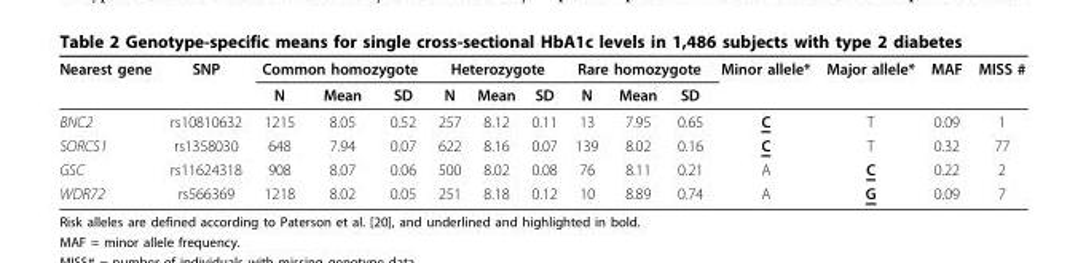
<table><thead><tr><td rowspan="2">Nearest gene</td><td rowspan="2">SNP</td><td colspan="3">Common homozygote</td><td colspan="3">Heterozygote</td><td colspan="3">Rare homozygote</td><td rowspan="2">Minor allele*</td><td rowspan="2">Major allele*</td><td rowspan="2">MAF</td><td rowspan="2">MISS #</td></tr><tr><td>N</td><td>Mean</td><td>SD</td><td>N</td><td>Mean</td><td>SD</td><td>N</td><td>Mean</td><td>SD</td></tr></thead><tbody><tr><td>BNC2</td><td>rs10810632</td><td>1215</td><td>8.05</td><td>0.52</td><td>257</td><td>8.12</td><td>0.11</td><td>13</td><td>7.95</td><td>0.65</td><td>C</td><td>T</td><td>0.09</td><td>1</td></tr><tr><td>SORCS1</td><td>rs1358030</td><td>648</td><td>7.94</td><td>0.07</td><td>622</td><td>8.16</td><td>0.07</td><td>139</td><td>8.02</td><td>0.16</td><td>C</td><td>T</td><td>0.32</td><td>77</td></tr><tr><td>GSC</td><td>rs11624318</td><td>908</td><td>8.07</td><td>0.06</td><td>500</td><td>8.02</td><td>0.08</td><td>76</td><td>8.11</td><td>0.21</td><td>A</td><td>C</td><td>0.22</td><td>2</td></tr><tr><td>WDR72</td><td>rs566369</td><td>1218</td><td>8.02</td><td>0.05</td><td>251</td><td>8.18</td><td>0.12</td><td>10</td><td>8.89</td><td>0.74</td><td>A</td><td>G</td><td>0.09</td><td>7</td></tr></tbody></table>